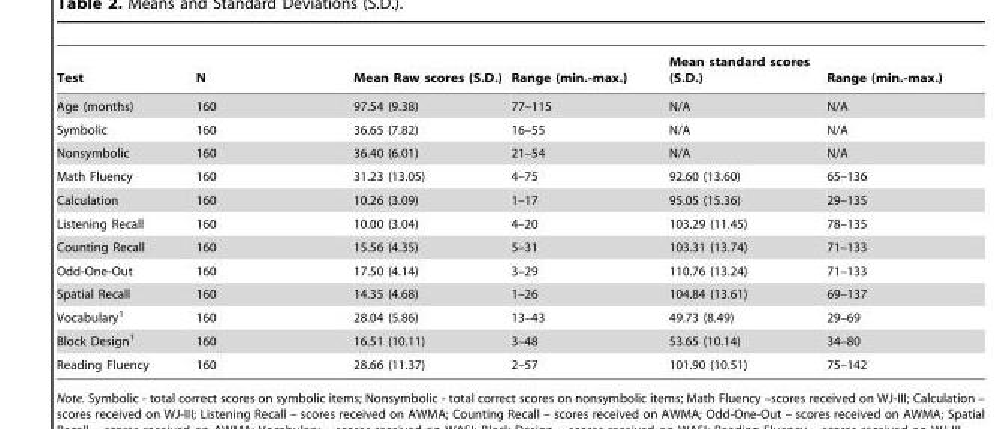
<table><thead><tr><td>Test</td><td>N</td><td>Mean Raw scores (S.D.)</td><td>Range (min.-max.)</td><td>Mean standard scores (S.D.)</td><td>Range (min.-max.)</td></tr></thead><tbody><tr><td>Age (months)</td><td>160</td><td>97.54 (9.38)</td><td>77–115</td><td>N/A</td><td>N/A</td></tr><tr><td>Symbolic</td><td>160</td><td>36.65 (7.82)</td><td>16–55</td><td>N/A</td><td>N/A</td></tr><tr><td>Nonsymbolic</td><td>160</td><td>36.40 (6.01)</td><td>21–54</td><td>N/A</td><td>N/A</td></tr><tr><td>Math Fluency</td><td>160</td><td>31.23 (13.05)</td><td>4–75</td><td>92.60 (13.60)</td><td>65–136</td></tr><tr><td>Calculation</td><td>160</td><td>10.26 (3.09)</td><td>1–17</td><td>95.05 (15.36)</td><td>29–135</td></tr><tr><td>Listening Recall</td><td>160</td><td>10.00 (3.04)</td><td>4–20</td><td>103.29 (11.45)</td><td>78–135</td></tr><tr><td>Counting Recall</td><td>160</td><td>15.56 (4.35)</td><td>5–31</td><td>103.31 (13.74)</td><td>71–133</td></tr><tr><td>Odd-One-Out</td><td>160</td><td>17.50 (4.14)</td><td>3–29</td><td>110.76 (13.24)</td><td>71–133</td></tr><tr><td>Spatial Recall</td><td>160</td><td>14.35 (4.68)</td><td>1–26</td><td>104.84 (13.61)</td><td>69–137</td></tr><tr><td>Vocabulary<sup>1</sup></td><td>160</td><td>28.04 (5.86)</td><td>13–43</td><td>49.73 (8.49)</td><td>29–69</td></tr><tr><td>Block Design<sup>1</sup></td><td>160</td><td>16.51 (10.11)</td><td>3–48</td><td>53.65 (10.14)</td><td>34–80</td></tr><tr><td>Reading Fluency</td><td>160</td><td>28.66 (11.37)</td><td>2–57</td><td>101.90 (10.51)</td><td>75–142</td></tr></tbody></table>